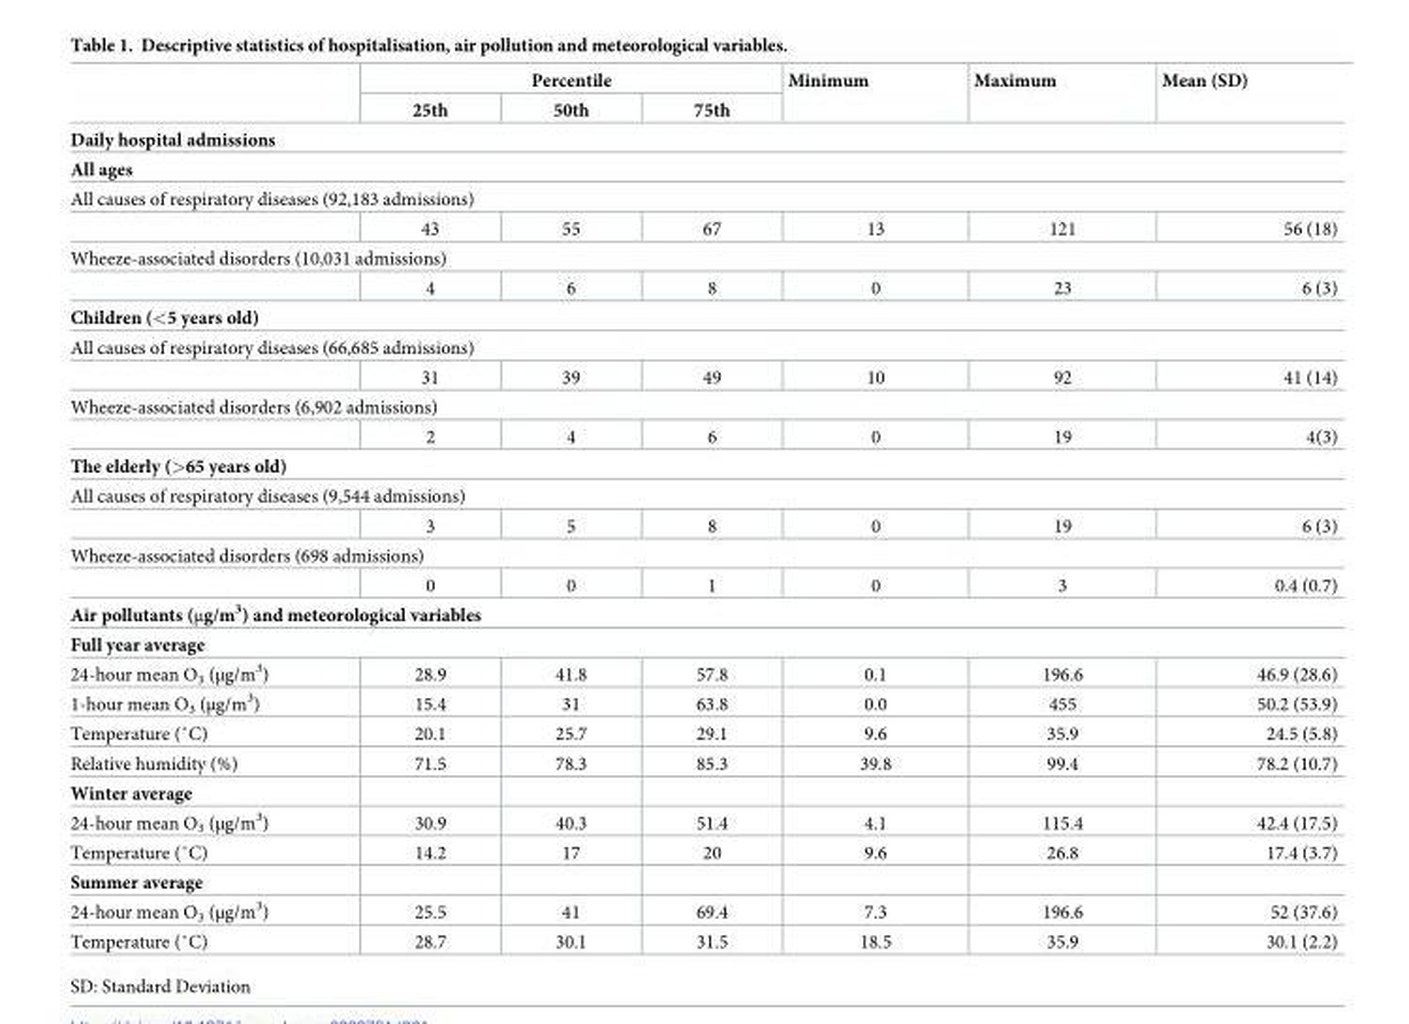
<table><thead><tr><td rowspan="2"></td><td colspan="3">Percentile</td><td rowspan="2">Minimum</td><td rowspan="2">Maximum</td><td rowspan="2">Mean (SD)</td></tr><tr><td>25th</td><td>50th</td><td>75th</td></tr></thead><tbody><tr><td colspan="7">Daily hospital admissions</td></tr><tr><td colspan="7">All ages</td></tr><tr><td colspan="7">All causes of respiratory diseases (92,183 admissions)</td></tr><tr><td></td><td>43</td><td>55</td><td>67</td><td>13</td><td>121</td><td>56 (18)</td></tr><tr><td colspan="7">Wheeze-associated disorders (10,031 admissions)</td></tr><tr><td></td><td>4</td><td>6</td><td>8</td><td>0</td><td>23</td><td>6 (3)</td></tr><tr><td colspan="7">Children (&lt;5 years old)</td></tr><tr><td colspan="7">All causes of respiratory diseases (66,685 admissions)</td></tr><tr><td></td><td>31</td><td>39</td><td>49</td><td>10</td><td>92</td><td>41 (14)</td></tr><tr><td colspan="7">Wheeze-associated disorders (6,902 admissions)</td></tr><tr><td></td><td>2</td><td>4</td><td>6</td><td>0</td><td>19</td><td>4(3)</td></tr><tr><td colspan="7">The elderly (&gt;65 years old)</td></tr><tr><td colspan="7">All causes of respiratory diseases (9,544 admissions)</td></tr><tr><td></td><td>3</td><td>5</td><td>8</td><td>0</td><td>19</td><td>6 (3)</td></tr><tr><td colspan="7">Wheeze-associated disorders (698 admissions)</td></tr><tr><td></td><td>0</td><td>0</td><td>1</td><td>0</td><td>3</td><td>0.4 (0.7)</td></tr><tr><td colspan="7">Air pollutants (μg/m<sup>3</sup>) and meteorological variables</td></tr><tr><td colspan="7">Full year average</td></tr><tr><td>24-hour mean O<sub>3</sub> (μg/m<sup>3</sup>)</td><td>28.9</td><td>41.8</td><td>57.8</td><td>0.1</td><td>196.6</td><td>46.9 (28.6)</td></tr><tr><td>1-hour mean O<sub>3</sub> (μg/m<sup>3</sup>)</td><td>15.4</td><td>31</td><td>63.8</td><td>0.0</td><td>455</td><td>50.2 (53.9)</td></tr><tr><td>Temperature (˚C)</td><td>20.1</td><td>25.7</td><td>29.1</td><td>9.6</td><td>35.9</td><td>24.5 (5.8)</td></tr><tr><td>Relative humidity (%)</td><td>71.5</td><td>78.3</td><td>85.3</td><td>39.8</td><td>99.4</td><td>78.2 (10.7)</td></tr><tr><td colspan="7">Winter average</td></tr><tr><td>24-hour mean O<sub>3</sub> (μg/m<sup>3</sup>)</td><td>30.9</td><td>40.3</td><td>51.4</td><td>4.1</td><td>115.4</td><td>42.4 (17.5)</td></tr><tr><td>Temperature (˚C)</td><td>14.2</td><td>17</td><td>20</td><td>9.6</td><td>26.8</td><td>17.4 (3.7)</td></tr><tr><td colspan="7">Summer average</td></tr><tr><td>24-hour mean O<sub>3</sub> (μg/m<sup>3</sup>)</td><td>25.5</td><td>41</td><td>69.4</td><td>7.3</td><td>196.6</td><td>52 (37.6)</td></tr><tr><td>Temperature (˚C)</td><td>28.7</td><td>30.1</td><td>31.5</td><td>18.5</td><td>35.9</td><td>30.1 (2.2)</td></tr></tbody></table>